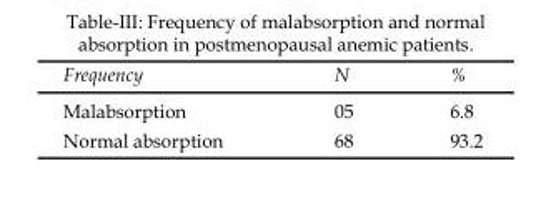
<table><thead><tr><td>Frequency</td><td>N</td><td>%</td></tr></thead><tbody><tr><td>Malabsorption</td><td>05</td><td>6.8</td></tr><tr><td>Normal absorption</td><td>68</td><td>93.2</td></tr></tbody></table>